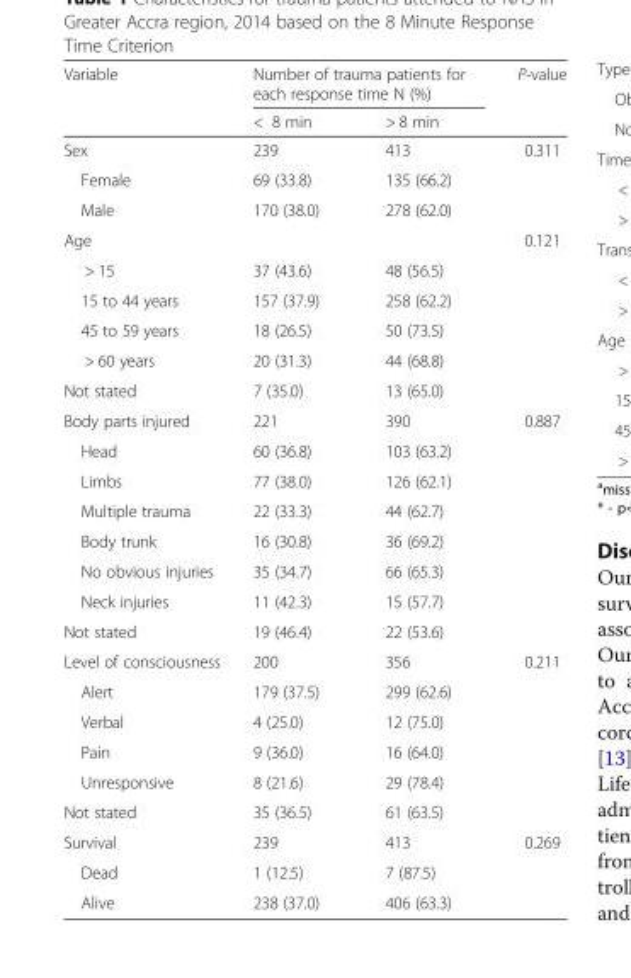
<table><thead><tr><td rowspan="2">Variable</td><td colspan="2">Number of trauma patients for each response time N (%)</td><td rowspan="2">P-value</td></tr><tr><td>&lt; 8 min</td><td>&gt; 8 min</td></tr></thead><tbody><tr><td>Sex</td><td>239</td><td>413</td><td>0.311</td></tr><tr><td>Female</td><td>69 (33.8)</td><td>135 (66.2)</td><td></td></tr><tr><td>Male</td><td>170 (38.0)</td><td>278 (62.0)</td><td></td></tr><tr><td>Age</td><td></td><td></td><td>0.121</td></tr><tr><td>&gt; 15</td><td>37 (43.6)</td><td>48 (56.5)</td><td></td></tr><tr><td>15 to 44 years</td><td>157 (37.9)</td><td>258 (62.2)</td><td></td></tr><tr><td>45 to 59 years</td><td>18 (26.5)</td><td>50 (73.5)</td><td></td></tr><tr><td>&gt; 60 years</td><td>20 (31.3)</td><td>44 (68.8)</td><td></td></tr><tr><td>Not stated</td><td>7 (35.0)</td><td>13 (65.0)</td><td></td></tr><tr><td>Body parts injured</td><td>221</td><td>390</td><td>0.887</td></tr><tr><td>Head</td><td>60 (36.8)</td><td>103 (63.2)</td><td></td></tr><tr><td>Limbs</td><td>77 (38.0)</td><td>126 (62.1)</td><td></td></tr><tr><td>Multiple trauma</td><td>22 (33.3)</td><td>44 (62.7)</td><td></td></tr><tr><td>Body trunk</td><td>16 (30.8)</td><td>36 (69.2)</td><td></td></tr><tr><td>No obvious injuries</td><td>35 (34.7)</td><td>66 (65.3)</td><td></td></tr><tr><td>Neck injuries</td><td>11 (42.3)</td><td>15 (57.7)</td><td></td></tr><tr><td>Not stated</td><td>19 (46.4)</td><td>22 (53.6)</td><td></td></tr><tr><td>Level of consciousness</td><td>200</td><td>356</td><td>0.211</td></tr><tr><td>Alert</td><td>179 (37.5)</td><td>299 (62.6)</td><td></td></tr><tr><td>Verbal</td><td>4 (25.0)</td><td>12 (75.0)</td><td></td></tr><tr><td>Pain</td><td>9 (36.0)</td><td>16 (64.0)</td><td></td></tr><tr><td>Unresponsive</td><td>8 (21.6)</td><td>29 (78.4)</td><td></td></tr><tr><td>Not stated</td><td>35 (36.5)</td><td>61 (63.5)</td><td></td></tr><tr><td>Survival</td><td>239</td><td>413</td><td>0.269</td></tr><tr><td>Dead</td><td>1 (12.5)</td><td>7 (87.5)</td><td></td></tr><tr><td>Alive</td><td>238 (37.0)</td><td>406 (63.3)</td><td></td></tr></tbody></table>